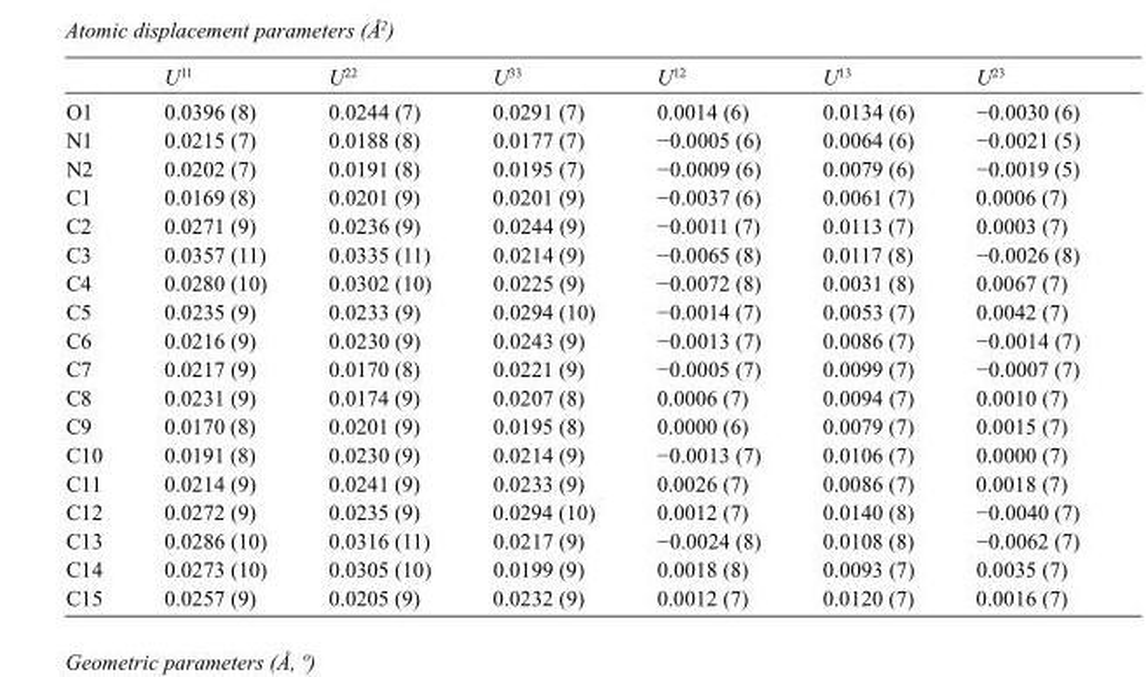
<table><thead><tr><td></td><td>U<sup>11</sup></td><td>U<sup>22</sup></td><td>U<sup>33</sup></td><td>U<sup>12</sup></td><td>U<sup>13</sup></td><td>U<sup>23</sup></td></tr></thead><tbody><tr><td>O1</td><td>0.0396 (8)</td><td>0.0244 (7)</td><td>0.0291 (7)</td><td>0.0014 (6)</td><td>0.0134 (6)</td><td>−0.0030 (6)</td></tr><tr><td>N1</td><td>0.0215 (7)</td><td>0.0188 (8)</td><td>0.0177 (7)</td><td>−0.0005 (6)</td><td>0.0064 (6)</td><td>−0.0021 (5)</td></tr><tr><td>N2</td><td>0.0202 (7)</td><td>0.0191 (8)</td><td>0.0195 (7)</td><td>−0.0009 (6)</td><td>0.0079 (6)</td><td>−0.0019 (5)</td></tr><tr><td>C1</td><td>0.0169 (8)</td><td>0.0201 (9)</td><td>0.0201 (9)</td><td>−0.0037 (6)</td><td>0.0061 (7)</td><td>0.0006 (7)</td></tr><tr><td>C2</td><td>0.0271 (9)</td><td>0.0236 (9)</td><td>0.0244 (9)</td><td>−0.0011 (7)</td><td>0.0113 (7)</td><td>0.0003 (7)</td></tr><tr><td>C3</td><td>0.0357 (11)</td><td>0.0335 (11)</td><td>0.0214 (9)</td><td>−0.0065 (8)</td><td>0.0117 (8)</td><td>−0.0026 (8)</td></tr><tr><td>C4</td><td>0.0280 (10)</td><td>0.0302 (10)</td><td>0.0225 (9)</td><td>−0.0072 (8)</td><td>0.0031 (8)</td><td>0.0067 (7)</td></tr><tr><td>C5</td><td>0.0235 (9)</td><td>0.0233 (9)</td><td>0.0294 (10)</td><td>−0.0014 (7)</td><td>0.0053 (7)</td><td>0.0042 (7)</td></tr><tr><td>C6</td><td>0.0216 (9)</td><td>0.0230 (9)</td><td>0.0243 (9)</td><td>−0.0013 (7)</td><td>0.0086 (7)</td><td>−0.0014 (7)</td></tr><tr><td>C7</td><td>0.0217 (9)</td><td>0.0170 (8)</td><td>0.0221 (9)</td><td>−0.0005 (7)</td><td>0.0099 (7)</td><td>−0.0007 (7)</td></tr><tr><td>C8</td><td>0.0231 (9)</td><td>0.0174 (9)</td><td>0.0207 (8)</td><td>0.0006 (7)</td><td>0.0094 (7)</td><td>0.0010 (7)</td></tr><tr><td>C9</td><td>0.0170 (8)</td><td>0.0201 (9)</td><td>0.0195 (8)</td><td>0.0000 (6)</td><td>0.0079 (7)</td><td>0.0015 (7)</td></tr><tr><td>C10</td><td>0.0191 (8)</td><td>0.0230 (9)</td><td>0.0214 (9)</td><td>−0.0013 (7)</td><td>0.0106 (7)</td><td>0.0000 (7)</td></tr><tr><td>C11</td><td>0.0214 (9)</td><td>0.0241 (9)</td><td>0.0233 (9)</td><td>0.0026 (7)</td><td>0.0086 (7)</td><td>0.0018 (7)</td></tr><tr><td>C12</td><td>0.0272 (9)</td><td>0.0235 (9)</td><td>0.0294 (10)</td><td>0.0012 (7)</td><td>0.0140 (8)</td><td>−0.0040 (7)</td></tr><tr><td>C13</td><td>0.0286 (10)</td><td>0.0316 (11)</td><td>0.0217 (9)</td><td>−0.0024 (8)</td><td>0.0108 (8)</td><td>−0.0062 (7)</td></tr><tr><td>C14</td><td>0.0273 (10)</td><td>0.0305 (10)</td><td>0.0199 (9)</td><td>0.0018 (8)</td><td>0.0093 (7)</td><td>0.0035 (7)</td></tr><tr><td>C15</td><td>0.0257 (9)</td><td>0.0205 (9)</td><td>0.0232 (9)</td><td>0.0012 (7)</td><td>0.0120 (7)</td><td>0.0016 (7)</td></tr></tbody></table>